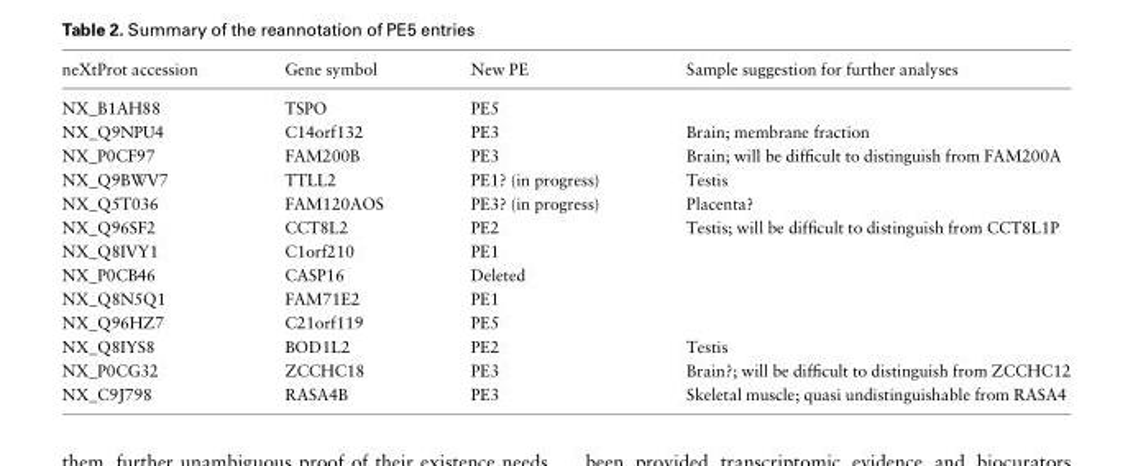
<table><thead><tr><td>neXtProt accession</td><td>Gene symbol</td><td>New PE</td><td>Sample suggestion for further analyses</td></tr></thead><tbody><tr><td>NX_B1AH88</td><td>TSPO</td><td>PE5</td><td></td></tr><tr><td>NX_Q9NPU4</td><td>C14orf132</td><td>PE3</td><td>Brain; membrane fraction</td></tr><tr><td>NX_P0CF97</td><td>FAM200B</td><td>PE3</td><td>Brain; will be difficult to distinguish from FAM200A</td></tr><tr><td>NX_Q9BWV7</td><td>TTLL2</td><td>PE1? (in progress)</td><td>Testis</td></tr><tr><td>NX_Q5T036</td><td>FAM120AOS</td><td>PE3? (in progress)</td><td>Placenta?</td></tr><tr><td>NX_Q96SF2</td><td>CCT8L2</td><td>PE2</td><td>Testis; will be difficult to distinguish from CCT8L1P</td></tr><tr><td>NX_Q8IVY1</td><td>C1orf210</td><td>PE1</td><td></td></tr><tr><td>NX_P0CB46</td><td>CASP16</td><td>Deleted</td><td></td></tr><tr><td>NX_Q8N5Q1</td><td>FAM71E2</td><td>PE1</td><td></td></tr><tr><td>NX_Q96HZ7</td><td>C21orf119</td><td>PE5</td><td></td></tr><tr><td>NX_Q8IYS8</td><td>BOD1L2</td><td>PE2</td><td>Testis</td></tr><tr><td>NX_P0CG32</td><td>ZCCHC18</td><td>PE3</td><td>Brain?; will be difficult to distinguish from ZCCHC12</td></tr><tr><td>NX_C9J798</td><td>RASA4B</td><td>PE3</td><td>Skeletal muscle; quasi undistinguishable from RASA4</td></tr></tbody></table>